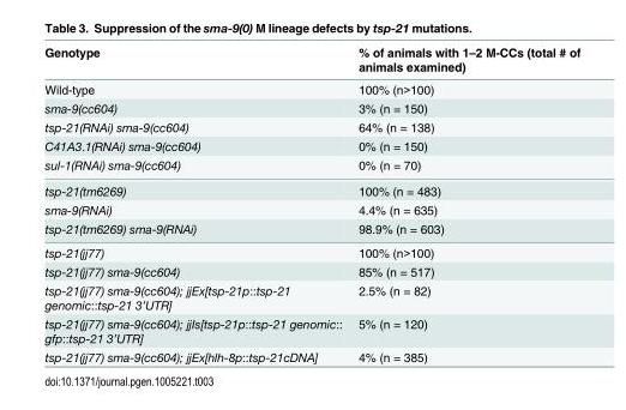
<table><thead><tr><td>Genotype</td><td>% of animals with 1–2 M-CCs (total # of animals examined)</td></tr></thead><tbody><tr><td>Wild-type</td><td>100% (n&gt;100)</td></tr><tr><td>sma-9(cc604)</td><td>3% (n = 150)</td></tr><tr><td>tsp-21(RNAi) sma-9(cc604)</td><td>64% (n = 138)</td></tr><tr><td>C41A3.1(RNAi) sma-9(cc604)</td><td>0% (n = 150)</td></tr><tr><td>sul-1(RNAi) sma-9(cc604)</td><td>0% (n = 70)</td></tr><tr><td>tsp-21(tm6269)</td><td>100% (n = 483)</td></tr><tr><td>sma-9(RNAi)</td><td>4.4% (n = 635)</td></tr><tr><td>tsp-21(tm6269) sma-9(RNAi)</td><td>98.9% (n = 603)</td></tr><tr><td>tsp-21(jj77)</td><td>100% (n&gt;100)</td></tr><tr><td>tsp-21(jj77) sma-9(cc604)</td><td>85% (n = 517)</td></tr><tr><td>tsp-21(jj77) sma-9(cc604); jjEx[tsp-21p::tsp-21 genomic::tsp-21 3’UTR]</td><td>2.5% (n = 82)</td></tr><tr><td>tsp-21(jj77) sma-9(cc604); jjIs[tsp-21p::tsp-21 genomic:: gfp::tsp-21 3’UTR]</td><td>5% (n = 120)</td></tr><tr><td>tsp-21(jj77) sma-9(cc604); jjEx[hlh-8p::tsp-21cDNA]</td><td>4% (n = 385)</td></tr></tbody></table>